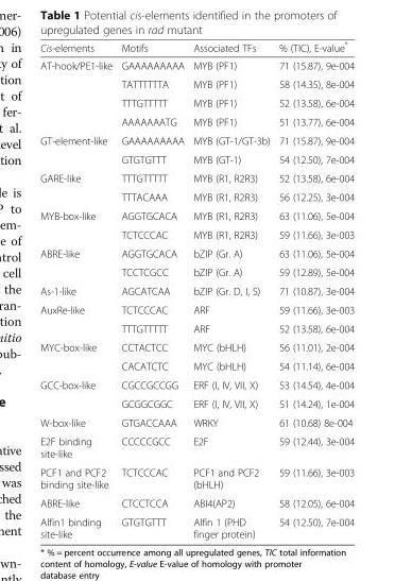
<table><thead><tr><td>Cis-elements</td><td>Motifs</td><td>Associated TFs</td><td>% (TIC), E-value*</td></tr></thead><tbody><tr><td rowspan="4">AT-hook/PE1-like</td><td>GAAAAAAAAA</td><td>MYB (PF1)</td><td>71 (15.87), 9e-004</td></tr><tr><td>TATTTTTTA</td><td>MYB (PF1)</td><td>58 (14.35), 8e-004</td></tr><tr><td>TTTGTTTTT</td><td>MYB (PF1)</td><td>52 (13.58), 6e-004</td></tr><tr><td>AAAAAAATG</td><td>MYB (PF1)</td><td>51 (13.77), 6e-004</td></tr><tr><td rowspan="2">GT-element-like</td><td>GAAAAAAAAA</td><td>MYB (GT-1/GT-3b)</td><td>71 (15.87), 9e-004</td></tr><tr><td>GTGTGTTT</td><td>MYB (GT-1)</td><td>54 (12.50), 7e-004</td></tr><tr><td rowspan="2">GARE-like</td><td>TTTGTTTTT</td><td>MYB (R1, R2R3)</td><td>52 (13.58), 6e-004</td></tr><tr><td>TTTACAAA</td><td>MYB (R1, R2R3)</td><td>56 (12.25), 3e-004</td></tr><tr><td rowspan="2">MYB-box-like</td><td>AGGTGCACA</td><td>MYB (R1, R2R3)</td><td>63 (11.06), 5e-004</td></tr><tr><td>TCTCCCAC</td><td>MYB (R1, R2R3)</td><td>59 (11.66), 3e-003</td></tr><tr><td rowspan="2">ABRE-like</td><td>AGGTGCACA</td><td>bZIP (Gr. A)</td><td>63 (11.06), 5e-004</td></tr><tr><td>TCCTCGCC</td><td>bZIP (Gr. A)</td><td>59 (12.89), 5e-004</td></tr><tr><td>As-1-like</td><td>AGCATCAA</td><td>bZIP (Gr. D, I, S)</td><td>71 (10.87), 3e-004</td></tr><tr><td rowspan="2">AuxRe-like</td><td>TCTCCCAC</td><td>ARF</td><td>59 (11.66), 3e-003</td></tr><tr><td>TTTGTTTTT</td><td>ARF</td><td>52 (13.58), 6e-004</td></tr><tr><td rowspan="2">MYC-box-like</td><td>CCTACTCC</td><td>MYC (bHLH)</td><td>56 (11.01), 2e-004</td></tr><tr><td>CACATCTC</td><td>MYC (bHLH)</td><td>54 (11.14), 6e-004</td></tr><tr><td rowspan="2">GCC-box-like</td><td>CGCCGCCGG</td><td>ERF (I, IV, VII, X)</td><td>53 (14.54), 4e-004</td></tr><tr><td>GCGGCGGC</td><td>ERF (I, IV, VII, X)</td><td>51 (14.24), 1e-004</td></tr><tr><td>W-box-like</td><td>GTGACCAAA</td><td>WRKY</td><td>61 (10.68) 8e-004</td></tr><tr><td>E2F binding site-like</td><td>CCCCCGCC</td><td>E2F</td><td>59 (12.44), 3e-004</td></tr><tr><td>PCF1 and PCF2 binding site-like</td><td>TCTCCCAC</td><td>PCF1 and PCF2 (bHLH)</td><td>59 (11.66), 3e-003</td></tr><tr><td>ABRE-like</td><td>CTCCTCCA</td><td>ABI4(AP2)</td><td>58 (12.05), 6e-004</td></tr><tr><td>Alfin1 binding site-like</td><td>GTGTGTTT</td><td>Alfin 1 (PHD finger protein)</td><td>54 (12.50), 7e-004</td></tr></tbody></table>